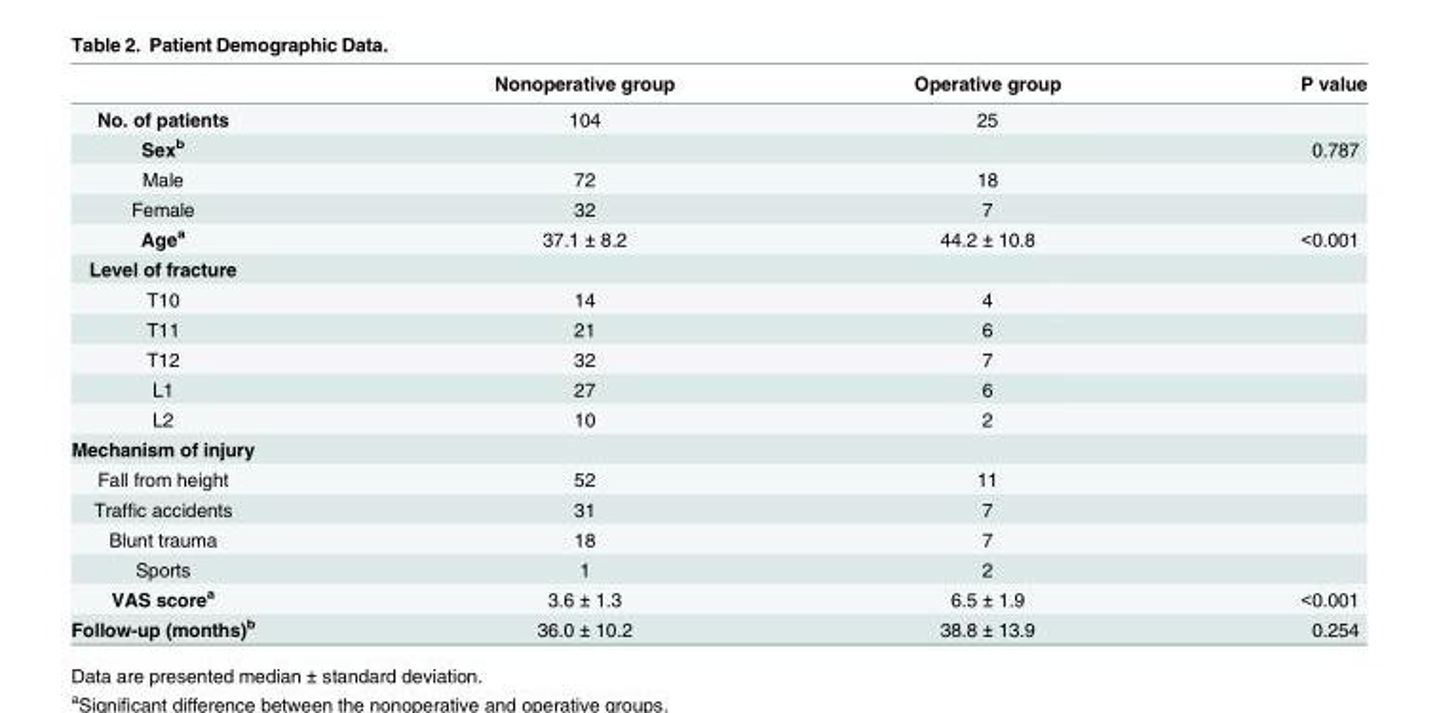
<table><thead><tr><td></td><td>Nonoperative group</td><td>Operative group</td><td>P value</td></tr></thead><tbody><tr><td>No. of patients</td><td>104</td><td>25</td><td></td></tr><tr><td>Sex<sup>b</sup></td><td></td><td></td><td>0.787</td></tr><tr><td>Male</td><td>72</td><td>18</td><td></td></tr><tr><td>Female</td><td>32</td><td>7</td><td></td></tr><tr><td>Age<sup>a</sup></td><td>37.1 ± 8.2</td><td>44.2 ± 10.8</td><td>&lt;0.001</td></tr><tr><td colspan="4">Level of fracture</td></tr><tr><td>T10</td><td>14</td><td>4</td><td></td></tr><tr><td>T11</td><td>21</td><td>6</td><td></td></tr><tr><td>T12</td><td>32</td><td>7</td><td></td></tr><tr><td>L1</td><td>27</td><td>6</td><td></td></tr><tr><td>L2</td><td>10</td><td>2</td><td></td></tr><tr><td colspan="4">Mechanism of injury</td></tr><tr><td>Fall from height</td><td>52</td><td>11</td><td></td></tr><tr><td>Traffic accidents</td><td>31</td><td>7</td><td></td></tr><tr><td>Blunt trauma</td><td>18</td><td>7</td><td></td></tr><tr><td>Sports</td><td>1</td><td>2</td><td></td></tr><tr><td>VAS score<sup>a</sup></td><td>3.6 ± 1.3</td><td>6.5 ± 1.9</td><td>&lt;0.001</td></tr><tr><td>Follow-up (months)<sup>b</sup></td><td>36.0 ± 10.2</td><td>38.8 ± 13.9</td><td>0.254</td></tr></tbody></table>